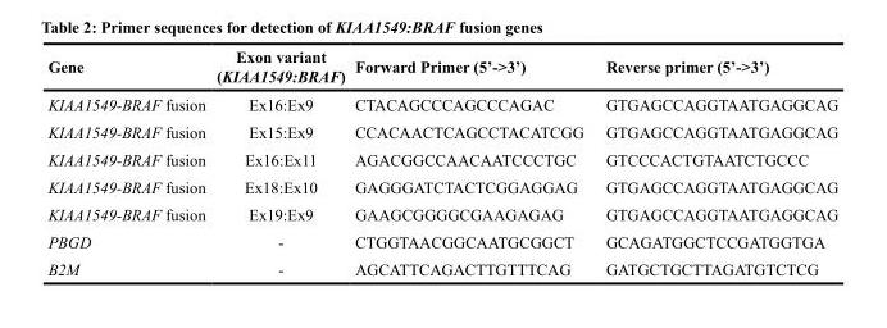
<table><thead><tr><td>Gene</td><td>Exon variant (KIAA1549:BRAF)</td><td>Forward Primer (5’-&gt;3’)</td><td>Reverse primer (5’-&gt;3’)</td></tr></thead><tbody><tr><td>KIAA1549-BRAF fusion</td><td>Ex16:Ex9</td><td>CTACAGCCCAGCCCAGAC</td><td>GTGAGCCAGGTAATGAGGCAG</td></tr><tr><td>KIAA1549-BRAF fusion</td><td>Ex15:Ex9</td><td>CCACAACTCAGCCTACATCGG</td><td>GTGAGCCAGGTAATGAGGCAG</td></tr><tr><td>KIAA1549-BRAF fusion</td><td>Ex16:Ex11</td><td>AGACGGCCAACAATCCCTGC</td><td>GTCCCACTGTAATCTGCCC</td></tr><tr><td>KIAA1549-BRAF fusion</td><td>Ex18:Ex10</td><td>GAGGGATCTACTCGGAGGAG</td><td>GTGAGCCAGGTAATGAGGCAG</td></tr><tr><td>KIAA1549-BRAF fusion</td><td>Ex19:Ex9</td><td>GAAGCGGGGCGAAGAGAG</td><td>GTGAGCCAGGTAATGAGGCAG</td></tr><tr><td>PBGD</td><td>-</td><td>CTGGTAACGGCAATGCGGCT</td><td>GCAGATGGCTCCGATGGTGA</td></tr><tr><td>B2M</td><td>-</td><td>AGCATTCAGACTTGTTTCAG</td><td>GATGCTGCTTAGATGTCTCG</td></tr></tbody></table>